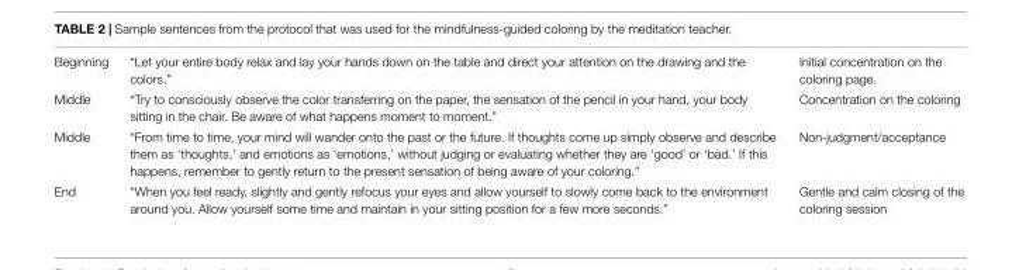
<table><tbody><tr><td>Beginning</td><td>“Let your entire body relax and lay your hands down on the table and direct your attention on the drawing and the colors.”</td><td>Initial concentration on the coloring page.</td></tr><tr><td>Middle</td><td>“Try to consciously observe the color transferring on the paper, the sensation of the pencil in your hand, your body sitting in the chair. Be aware of what happens moment to moment.”</td><td>Concentration on the coloring</td></tr><tr><td>Middle</td><td>“From time to time, your mind will wander onto the past or the future. If thoughts come up simply observe and describe them as ‘thoughts,’ and emotions as ‘emotions,’ without judging or evaluating whether they are ‘good’ or ‘bad.’ If this happens, remember to gently return to the present sensation of being aware of your coloring.”</td><td>Non-judgment/acceptance</td></tr><tr><td>End</td><td>“When you feel ready, slightly and gently refocus your eyes and allow yourself to slowly come back to the environment around you. Allow yourself some time and maintain in your sitting position for a few more seconds.”</td><td>Gentle and calm closing of the coloring session</td></tr></tbody></table>